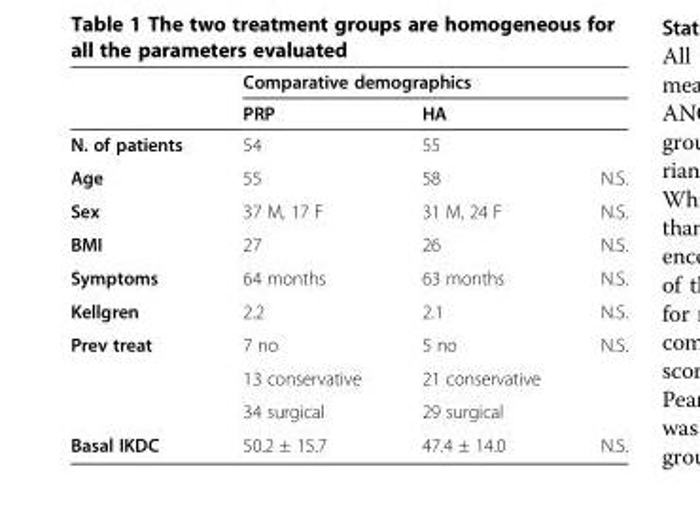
<table><thead><tr><td rowspan="2"></td><td colspan="3">Comparative demographics</td></tr><tr><td>PRP</td><td>HA</td><td></td></tr></thead><tbody><tr><td>N. of patients</td><td>54</td><td>55</td><td></td></tr><tr><td>Age</td><td>55</td><td>58</td><td>N.S.</td></tr><tr><td>Sex</td><td>37 M, 17 F</td><td>31 M, 24 F</td><td>N.S.</td></tr><tr><td>BMI</td><td>27</td><td>26</td><td>N.S.</td></tr><tr><td>Symptoms</td><td>64 months</td><td>63 months</td><td>N.S.</td></tr><tr><td>Kellgren</td><td>2.2</td><td>2.1</td><td>N.S.</td></tr><tr><td rowspan="3">Prev treat</td><td>7 no</td><td>5 no</td><td>N.S.</td></tr><tr><td>13 conservative</td><td>21 conservative</td><td></td></tr><tr><td>34 surgical</td><td>29 surgical</td><td></td></tr><tr><td>Basal IKDC</td><td>50.2 ± 15.7</td><td>47.4 ± 14.0</td><td>N.S.</td></tr></tbody></table>